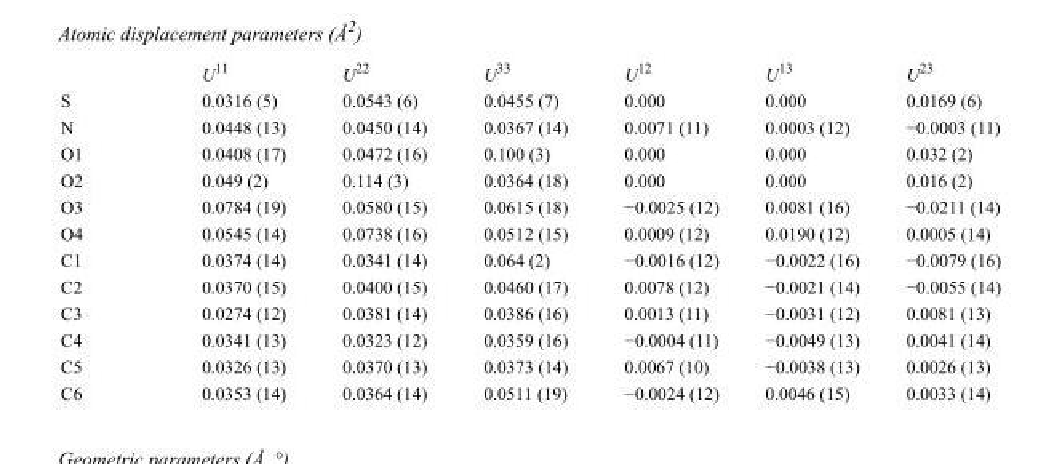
<table><thead><tr><td></td><td>U<sup>11</sup></td><td>U<sup>22</sup></td><td>U<sup>33</sup></td><td>U<sup>12</sup></td><td>U<sup>13</sup></td><td>U<sup>23</sup></td></tr></thead><tbody><tr><td>S</td><td>0.0316 (5)</td><td>0.0543 (6)</td><td>0.0455 (7)</td><td>0.000</td><td>0.000</td><td>0.0169 (6)</td></tr><tr><td>N</td><td>0.0448 (13)</td><td>0.0450 (14)</td><td>0.0367 (14)</td><td>0.0071 (11)</td><td>0.0003 (12)</td><td>−0.0003 (11)</td></tr><tr><td>O1</td><td>0.0408 (17)</td><td>0.0472 (16)</td><td>0.100 (3)</td><td>0.000</td><td>0.000</td><td>0.032 (2)</td></tr><tr><td>O2</td><td>0.049 (2)</td><td>0.114 (3)</td><td>0.0364 (18)</td><td>0.000</td><td>0.000</td><td>0.016 (2)</td></tr><tr><td>O3</td><td>0.0784 (19)</td><td>0.0580 (15)</td><td>0.0615 (18)</td><td>−0.0025 (12)</td><td>0.0081 (16)</td><td>−0.0211 (14)</td></tr><tr><td>O4</td><td>0.0545 (14)</td><td>0.0738 (16)</td><td>0.0512 (15)</td><td>0.0009 (12)</td><td>0.0190 (12)</td><td>0.0005 (14)</td></tr><tr><td>C1</td><td>0.0374 (14)</td><td>0.0341 (14)</td><td>0.064 (2)</td><td>−0.0016 (12)</td><td>−0.0022 (16)</td><td>−0.0079 (16)</td></tr><tr><td>C2</td><td>0.0370 (15)</td><td>0.0400 (15)</td><td>0.0460 (17)</td><td>0.0078 (12)</td><td>−0.0021 (14)</td><td>−0.0055 (14)</td></tr><tr><td>C3</td><td>0.0274 (12)</td><td>0.0381 (14)</td><td>0.0386 (16)</td><td>0.0013 (11)</td><td>−0.0031 (12)</td><td>0.0081 (13)</td></tr><tr><td>C4</td><td>0.0341 (13)</td><td>0.0323 (12)</td><td>0.0359 (16)</td><td>−0.0004 (11)</td><td>−0.0049 (13)</td><td>0.0041 (14)</td></tr><tr><td>C5</td><td>0.0326 (13)</td><td>0.0370 (13)</td><td>0.0373 (14)</td><td>0.0067 (10)</td><td>−0.0038 (13)</td><td>0.0026 (13)</td></tr><tr><td>C6</td><td>0.0353 (14)</td><td>0.0364 (14)</td><td>0.0511 (19)</td><td>−0.0024 (12)</td><td>0.0046 (15)</td><td>0.0033 (14)</td></tr></tbody></table>